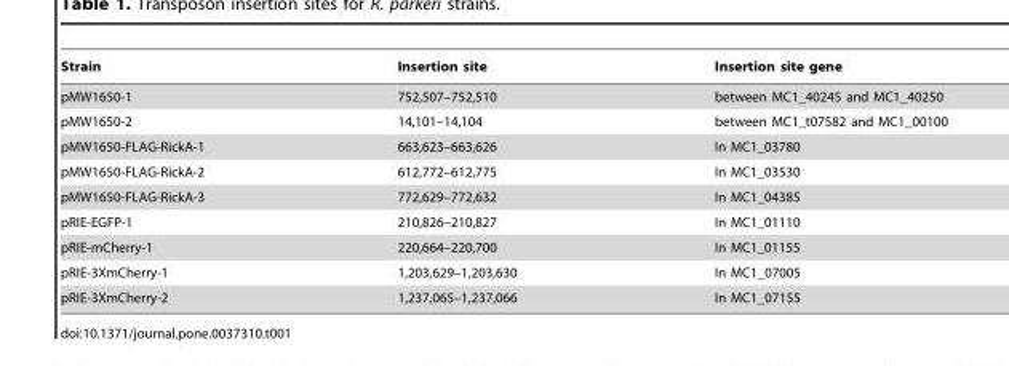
<table><thead><tr><td>Strain</td><td>Insertion site</td><td>Insertion site gene</td></tr></thead><tbody><tr><td>pMW1650-1</td><td>752,507–752,510</td><td>between MC1_40245 and MC1_40250</td></tr><tr><td>pMW1650-2</td><td>14,101–14,104</td><td>between MC1_t07582 and MC1_00100</td></tr><tr><td>pMW1650-FLAG-RickA-1</td><td>663,623–663,626</td><td>In MC1_03780</td></tr><tr><td>pMW1650-FLAG-RickA-2</td><td>612,772–612,775</td><td>In MC1_03530</td></tr><tr><td>pMW1650-FLAG-RickA-3</td><td>772,629–772,632</td><td>In MC1_04385</td></tr><tr><td>pRIE-EGFP-1</td><td>210,826–210,827</td><td>In MC1_01110</td></tr><tr><td>pRIE-mCherry-1</td><td>220,664–220,700</td><td>In MC1_01155</td></tr><tr><td>pRIE-3XmCherry-1</td><td>1,203,629–1,203,630</td><td>In MC1_07005</td></tr><tr><td>pRIE-3XmCherry-2</td><td>1,237,065–1,237,066</td><td>In MC1_07155</td></tr></tbody></table>